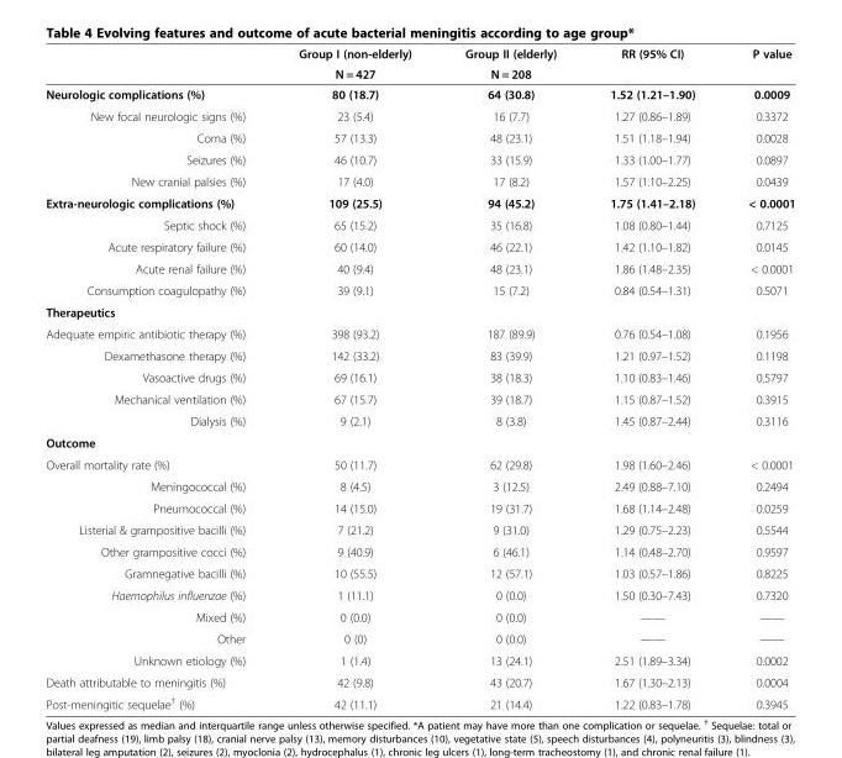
<table><thead><tr><td rowspan="2"></td><td rowspan="2">Group I (non-elderly) N = 427</td><td rowspan="2">Group II (elderly) N = 208</td><td rowspan="2">RR (95% CI)</td><td rowspan="2">P value</td></tr><tr></tr></thead><tbody><tr><td>Neurologic complications (%)</td><td>80 (18.7)</td><td>64 (30.8)</td><td>1.52 (1.21–1.90)</td><td>0.0009</td></tr><tr><td>New focal neurologic signs (%)</td><td>23 (5.4)</td><td>16 (7.7)</td><td>1.27 (0.86–1.89)</td><td>0.3372</td></tr><tr><td>Coma (%)</td><td>57 (13.3)</td><td>48 (23.1)</td><td>1.51 (1.18–1.94)</td><td>0.0028</td></tr><tr><td>Seizures (%)</td><td>46 (10.7)</td><td>33 (15.9)</td><td>1.33 (1.00–1.77)</td><td>0.0897</td></tr><tr><td>New cranial palsies (%)</td><td>17 (4.0)</td><td>17 (8.2)</td><td>1.57 (1.10–2.25)</td><td>0.0439</td></tr><tr><td>Extra-neurologic complications (%)</td><td>109 (25.5)</td><td>94 (45.2)</td><td>1.75 (1.41–2.18)</td><td>&lt; 0.0001</td></tr><tr><td>Septic shock (%)</td><td>65 (15.2)</td><td>35 (16.8)</td><td>1.08 (0.80–1.44)</td><td>0.7125</td></tr><tr><td>Acute respiratory failure (%)</td><td>60 (14.0)</td><td>46 (22.1)</td><td>1.42 (1.10–1.82)</td><td>0.0145</td></tr><tr><td>Acute renal failure (%)</td><td>40 (9.4)</td><td>48 (23.1)</td><td>1.86 (1.48–2.35)</td><td>&lt; 0.0001</td></tr><tr><td>Consumption coagulopathy (%)</td><td>39 (9.1)</td><td>15 (7.2)</td><td>0.84 (0.54–1.31)</td><td>0.5071</td></tr><tr><td colspan="5">Therapeutics</td></tr><tr><td>Adequate empiric antibiotic therapy (%)</td><td>398 (93.2)</td><td>187 (89.9)</td><td>0.76 (0.54–1.08)</td><td>0.1956</td></tr><tr><td>Dexamethasone therapy (%)</td><td>142 (33.2)</td><td>83 (39.9)</td><td>1.21 (0.97–1.52)</td><td>0.1198</td></tr><tr><td>Vasoactive drugs (%)</td><td>69 (16.1)</td><td>38 (18.3)</td><td>1.10 (0.83–1.46)</td><td>0.5797</td></tr><tr><td>Mechanical ventilation (%)</td><td>67 (15.7)</td><td>39 (18.7)</td><td>1.15 (0.87–1.52)</td><td>0.3915</td></tr><tr><td>Dialysis (%)</td><td>9 (2.1)</td><td>8 (3.8)</td><td>1.45 (0.87–2.44)</td><td>0.3116</td></tr><tr><td colspan="5">Outcome</td></tr><tr><td>Overall mortality rate (%)</td><td>50 (11.7)</td><td>62 (29.8)</td><td>1.98 (1.60–2.46)</td><td>&lt; 0.0001</td></tr><tr><td>Meningococcal (%)</td><td>8 (4.5)</td><td>3 (12.5)</td><td>2.49 (0.88–7.10)</td><td>0.2494</td></tr><tr><td>Pneumococcal (%)</td><td>14 (15.0)</td><td>19 (31.7)</td><td>1.68 (1.14–2.48)</td><td>0.0259</td></tr><tr><td>Listerial &amp; grampositive bacilli (%)</td><td>7 (21.2)</td><td>9 (31.0)</td><td>1.29 (0.75–2.23)</td><td>0.5544</td></tr><tr><td>Other grampositive cocci (%)</td><td>9 (40.9)</td><td>6 (46.1)</td><td>1.14 (0.48–2.70)</td><td>0.9597</td></tr><tr><td>Gramnegative bacilli (%)</td><td>10 (55.5)</td><td>12 (57.1)</td><td>1.03 (0.57–1.86)</td><td>0.8225</td></tr><tr><td>Haemophilus influenzae (%)</td><td>1 (11.1)</td><td>0 (0.0)</td><td>1.50 (0.30–7.43)</td><td>0.7320</td></tr><tr><td>Mixed (%)</td><td>0 (0.0)</td><td>0 (0.0)</td><td>——</td><td>——</td></tr><tr><td>Other</td><td>0 (0)</td><td>0 (0.0)</td><td>——</td><td>——</td></tr><tr><td>Unknown etiology (%)</td><td>1 (1.4)</td><td>13 (24.1)</td><td>2.51 (1.89–3.34)</td><td>0.0002</td></tr><tr><td>Death attributable to meningitis (%)</td><td>42 (9.8)</td><td>43 (20.7)</td><td>1.67 (1.30–2.13)</td><td>0.0004</td></tr><tr><td>Post-meningitic sequelae<sup>†</sup> (%)</td><td>42 (11.1)</td><td>21 (14.4)</td><td>1.22 (0.83–1.78)</td><td>0.3945</td></tr></tbody></table>